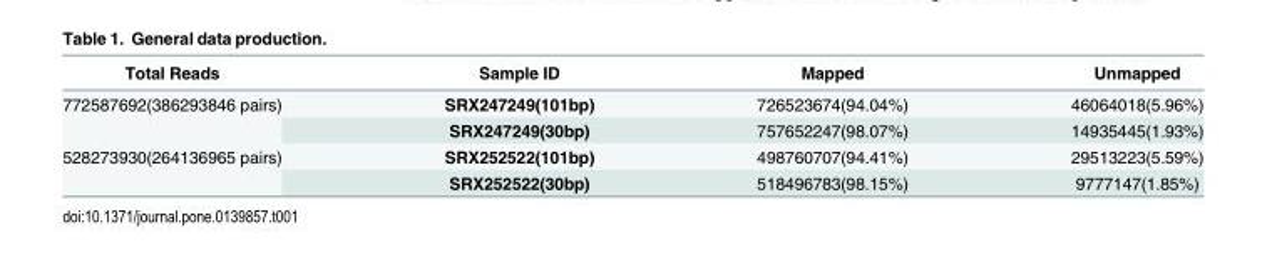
<table><thead><tr><td>Total Reads</td><td>Sample ID</td><td>Mapped</td><td>Unmapped</td></tr></thead><tbody><tr><td rowspan="2">772587692(386293846 pairs)</td><td>SRX247249(101bp)</td><td>726523674(94.04%)</td><td>46064018(5.96%)</td></tr><tr><td>SRX247249(30bp)</td><td>757652247(98.07%)</td><td>14935445(1.93%)</td></tr><tr><td rowspan="2">528273930(264136965 pairs)</td><td>SRX252522(101bp)</td><td>498760707(94.41%)</td><td>29513223(5.59%)</td></tr><tr><td>SRX252522(30bp)</td><td>518496783(98.15%)</td><td>9777147(1.85%)</td></tr></tbody></table>